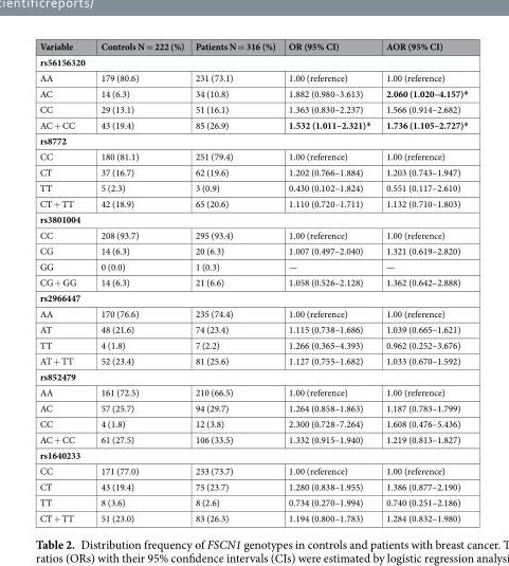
<table><thead><tr><td>Variable</td><td>Controls N = 222 (%)</td><td>Patients N = 316 (%)</td><td>OR (95% CI)</td><td>AOR (95% CI)</td></tr></thead><tbody><tr><td colspan="5">rs56156320</td></tr><tr><td>AA</td><td>179 (80.6)</td><td>231 (73.1)</td><td>1.00 (reference)</td><td>1.00 (reference)</td></tr><tr><td>AC</td><td>14 (6.3)</td><td>34 (10.8)</td><td>1.882 (0.980–3.613)</td><td>2.060 (1.020–4.157)*</td></tr><tr><td>CC</td><td>29 (13.1)</td><td>51 (16.1)</td><td>1.363 (0.830–2.237)</td><td>1.566 (0.914–2.682)</td></tr><tr><td>AC + CC</td><td>43 (19.4)</td><td>85 (26.9)</td><td>1.532 (1.011–2.321)*</td><td>1.736 (1.105–2.727)*</td></tr><tr><td colspan="5">rs8772</td></tr><tr><td>CC</td><td>180 (81.1)</td><td>251 (79.4)</td><td>1.00 (reference)</td><td>1.00 (reference)</td></tr><tr><td>CT</td><td>37 (16.7)</td><td>62 (19.6)</td><td>1.202 (0.766–1.884)</td><td>1.203 (0.743–1.947)</td></tr><tr><td>TT</td><td>5 (2.3)</td><td>3 (0.9)</td><td>0.430 (0.102–1.824)</td><td>0.551 (0.117–2.610)</td></tr><tr><td>CT + TT</td><td>42 (18.9)</td><td>65 (20.6)</td><td>1.110 (0.720–1.711)</td><td>1.132 (0.710–1.803)</td></tr><tr><td colspan="5">rs3801004</td></tr><tr><td>CC</td><td>208 (93.7)</td><td>295 (93.4)</td><td>1.00 (reference)</td><td>1.00 (reference)</td></tr><tr><td>CG</td><td>14 (6.3)</td><td>20 (6.3)</td><td>1.007 (0.497–2.040)</td><td>1.321 (0.619–2.820)</td></tr><tr><td>GG</td><td>0 (0.0)</td><td>1 (0.3)</td><td>—</td><td>—</td></tr><tr><td>CG + GG</td><td>14 (6.3)</td><td>21 (6.6)</td><td>1.058 (0.526–2.128)</td><td>1.362 (0.642–2.888)</td></tr><tr><td colspan="5">rs2966447</td></tr><tr><td>AA</td><td>170 (76.6)</td><td>235 (74.4)</td><td>1.00 (reference)</td><td>1.00 (reference)</td></tr><tr><td>AT</td><td>48 (21.6)</td><td>74 (23.4)</td><td>1.115 (0.738–1.686)</td><td>1.039 (0.665–1.621)</td></tr><tr><td>TT</td><td>4 (1.8)</td><td>7 (2.2)</td><td>1.266 (0.365–4.393)</td><td>0.962 (0.252–3.676)</td></tr><tr><td>AT + TT</td><td>52 (23.4)</td><td>81 (25.6)</td><td>1.127 (0.755–1.682)</td><td>1.033 (0.670–1.592)</td></tr><tr><td colspan="5">rs852479</td></tr><tr><td>AA</td><td>161 (72.5)</td><td>210 (66.5)</td><td>1.00 (reference)</td><td>1.00 (reference)</td></tr><tr><td>AC</td><td>57 (25.7)</td><td>94 (29.7)</td><td>1.264 (0.858–1.863)</td><td>1.187 (0.783–1.799)</td></tr><tr><td>CC</td><td>4 (1.8)</td><td>12 (3.8)</td><td>2.300 (0.728–7.264)</td><td>1.608 (0.476–5.436)</td></tr><tr><td>AC + CC</td><td>61 (27.5)</td><td>106 (33.5)</td><td>1.332 (0.915–1.940)</td><td>1.219 (0.813–1.827)</td></tr><tr><td colspan="5">rs1640233</td></tr><tr><td>CC</td><td>171 (77.0)</td><td>233 (73.7)</td><td>1.00 (reference)</td><td>1.00 (reference)</td></tr><tr><td>CT</td><td>43 (19.4)</td><td>75 (23.7)</td><td>1.280 (0.838–1.955)</td><td>1.386 (0.877–2.190)</td></tr><tr><td>TT</td><td>8 (3.6)</td><td>8 (2.6)</td><td>0.734 (0.270–1.994)</td><td>0.740 (0.251–2.186)</td></tr><tr><td>CT + TT</td><td>51 (23.0)</td><td>83 (26.3)</td><td>1.194 (0.800–1.783)</td><td>1.284 (0.832–1.980)</td></tr></tbody></table>